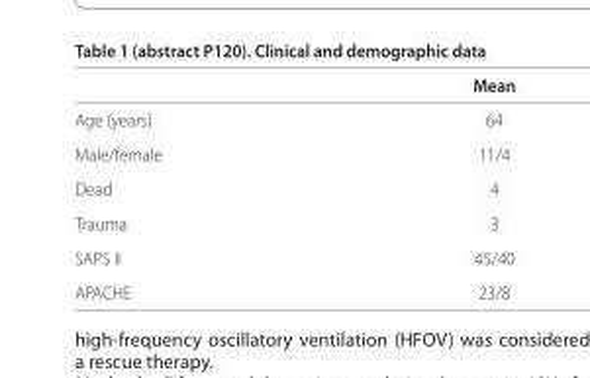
<table><thead><tr><td></td><td>Mean</td></tr></thead><tbody><tr><td>Age (years)</td><td>64</td></tr><tr><td>Male/female</td><td>11/4</td></tr><tr><td>Dead</td><td>4</td></tr><tr><td>Trauma</td><td>3</td></tr><tr><td>SAPS II</td><td>45/40</td></tr><tr><td>APACHE</td><td>23/8</td></tr></tbody></table>